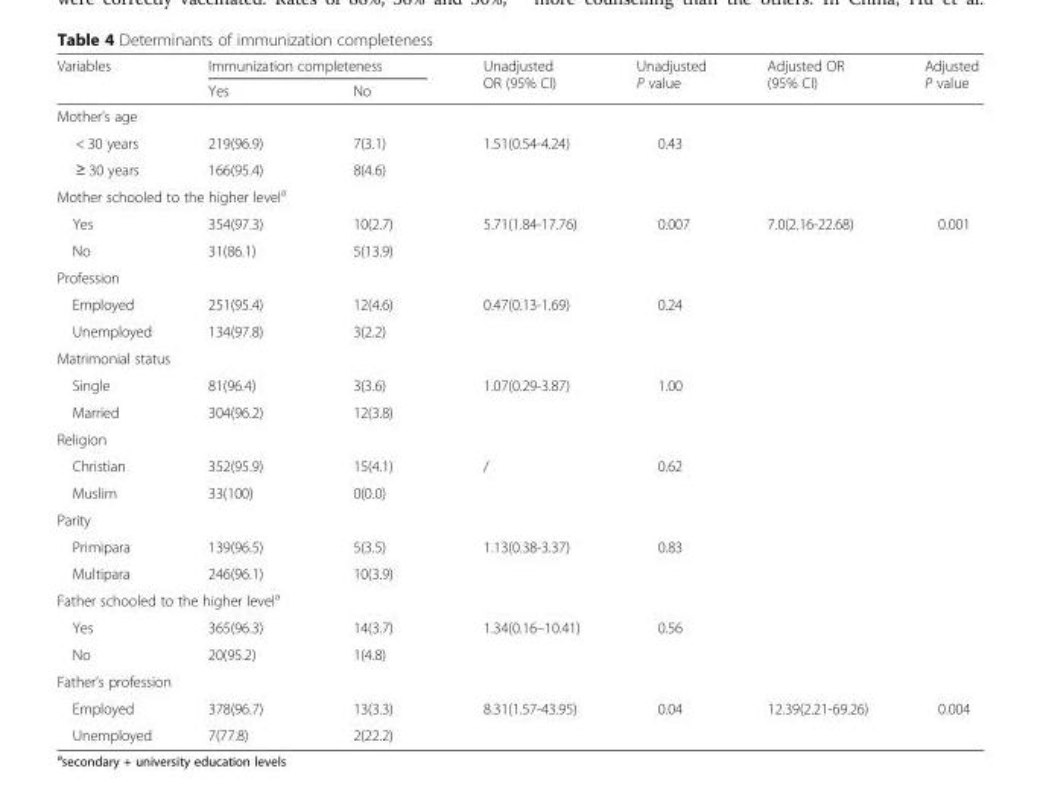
<table><thead><tr><td rowspan="2">Variables</td><td colspan="2">Immunization completeness</td><td rowspan="2">Unadjusted OR (95% CI)</td><td rowspan="2">Unadjusted P value</td><td rowspan="2">Adjusted OR (95% CI)</td><td rowspan="2">Adjusted P value</td></tr><tr><td>Yes</td><td>No</td></tr></thead><tbody><tr><td colspan="7">Mother’s age</td></tr><tr><td>&lt; 30 years</td><td>219(96.9)</td><td>7(3.1)</td><td>1.51(0.54-4.24)</td><td>0.43</td><td></td><td></td></tr><tr><td>≥ 30 years</td><td>166(95.4)</td><td>8(4.6)</td><td></td><td></td><td></td><td></td></tr><tr><td colspan="7">Mother schooled to the higher level<sup>a</sup></td></tr><tr><td>Yes</td><td>354(97.3)</td><td>10(2.7)</td><td>5.71(1.84-17.76)</td><td>0.007</td><td>7.0(2.16-22.68)</td><td>0.001</td></tr><tr><td>No</td><td>31(86.1)</td><td>5(13.9)</td><td></td><td></td><td></td><td></td></tr><tr><td colspan="7">Profession</td></tr><tr><td>Employed</td><td>251(95.4)</td><td>12(4.6)</td><td>0.47(0.13-1.69)</td><td>0.24</td><td></td><td></td></tr><tr><td>Unemployed</td><td>134(97.8)</td><td>3(2.2)</td><td></td><td></td><td></td><td></td></tr><tr><td colspan="7">Matrimonial status</td></tr><tr><td>Single</td><td>81(96.4)</td><td>3(3.6)</td><td>1.07(0.29-3.87)</td><td>1.00</td><td></td><td></td></tr><tr><td>Married</td><td>304(96.2)</td><td>12(3.8)</td><td></td><td></td><td></td><td></td></tr><tr><td colspan="7">Religion</td></tr><tr><td>Christian</td><td>352(95.9)</td><td>15(4.1)</td><td>/</td><td>0.62</td><td></td><td></td></tr><tr><td>Muslim</td><td>33(100)</td><td>0(0.0)</td><td></td><td></td><td></td><td></td></tr><tr><td colspan="7">Parity</td></tr><tr><td>Primipara</td><td>139(96.5)</td><td>5(3.5)</td><td>1.13(0.38-3.37)</td><td>0.83</td><td></td><td></td></tr><tr><td>Multipara</td><td>246(96.1)</td><td>10(3.9)</td><td></td><td></td><td></td><td></td></tr><tr><td colspan="7">Father schooled to the higher level<sup>a</sup></td></tr><tr><td>Yes</td><td>365(96.3)</td><td>14(3.7)</td><td>1.34(0.16–10.41)</td><td>0.56</td><td></td><td></td></tr><tr><td>No</td><td>20(95.2)</td><td>1(4.8)</td><td></td><td></td><td></td><td></td></tr><tr><td colspan="7">Father’s profession</td></tr><tr><td>Employed</td><td>378(96.7)</td><td>13(3.3)</td><td>8.31(1.57-43.95)</td><td>0.04</td><td>12.39(2.21-69.26)</td><td>0.004</td></tr><tr><td>Unemployed</td><td>7(77.8)</td><td>2(22.2)</td><td></td><td></td><td></td><td></td></tr></tbody></table>